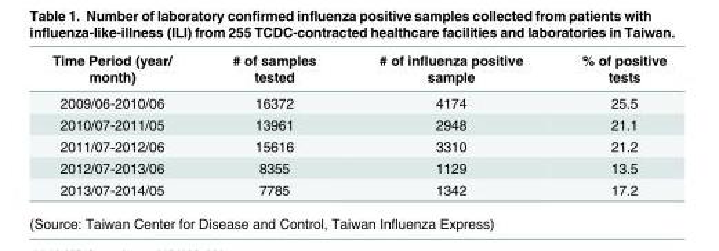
<table><thead><tr><td>Time Period (year/ month)</td><td># of samples tested</td><td># of influenza positive sample</td><td>% of positive tests</td></tr></thead><tbody><tr><td>2009/06-2010/06</td><td>16372</td><td>4174</td><td>25.5</td></tr><tr><td>2010/07-2011/05</td><td>13961</td><td>2948</td><td>21.1</td></tr><tr><td>2011/07-2012/06</td><td>15616</td><td>3310</td><td>21.2</td></tr><tr><td>2012/07-2013/06</td><td>8355</td><td>1129</td><td>13.5</td></tr><tr><td>2013/07-2014/05</td><td>7785</td><td>1342</td><td>17.2</td></tr></tbody></table>